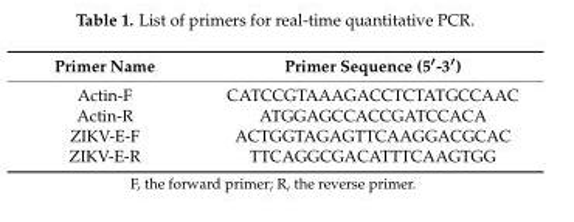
<table><thead><tr><td>Primer Name</td><td>Primer Sequence (5′-3′)</td></tr></thead><tbody><tr><td>Actin-F</td><td>CATCCGTAAAGACCTCTATGCCAAC</td></tr><tr><td>Actin-R</td><td>ATGGAGCCACCGATCCACA</td></tr><tr><td>ZIKV-E-F</td><td>ACTGGTAGAGTTCAAGGACGCAC</td></tr><tr><td>ZIKV-E-R</td><td>TTCAGGCGACATTTCAAGTGG</td></tr></tbody></table>